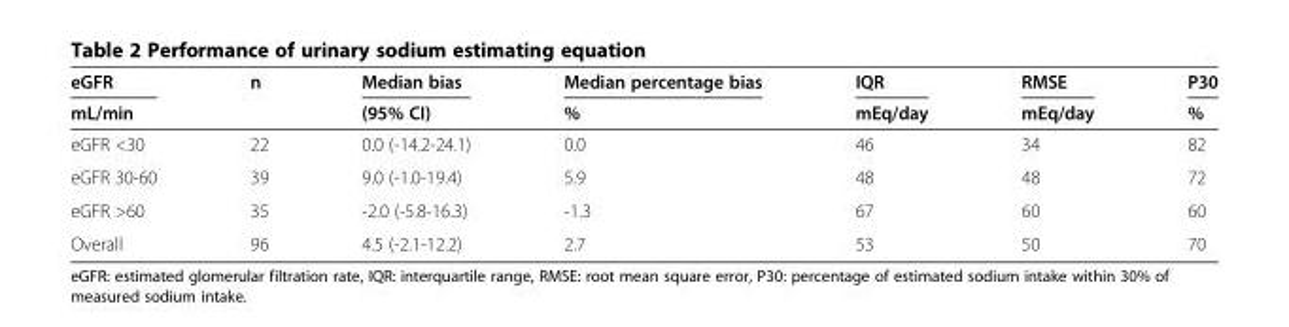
<table><thead><tr><td rowspan="2">eGFR mL/min</td><td rowspan="2">n</td><td rowspan="2">Median bias (95% CI)</td><td rowspan="2">Median percentage bias %</td><td rowspan="2">IQR mEq/day</td><td rowspan="2">RMSE mEq/day</td><td rowspan="2">P30 %</td></tr><tr></tr></thead><tbody><tr><td>eGFR &lt;30</td><td>22</td><td>0.0 (-14.2-24.1)</td><td>0.0</td><td>46</td><td>34</td><td>82</td></tr><tr><td>eGFR 30-60</td><td>39</td><td>9.0 (-1.0-19.4)</td><td>5.9</td><td>48</td><td>48</td><td>72</td></tr><tr><td>eGFR &gt;60</td><td>35</td><td>-2.0 (-5.8-16.3)</td><td>-1.3</td><td>67</td><td>60</td><td>60</td></tr><tr><td>Overall</td><td>96</td><td>4.5 (-2.1-12.2)</td><td>2.7</td><td>53</td><td>50</td><td>70</td></tr></tbody></table>